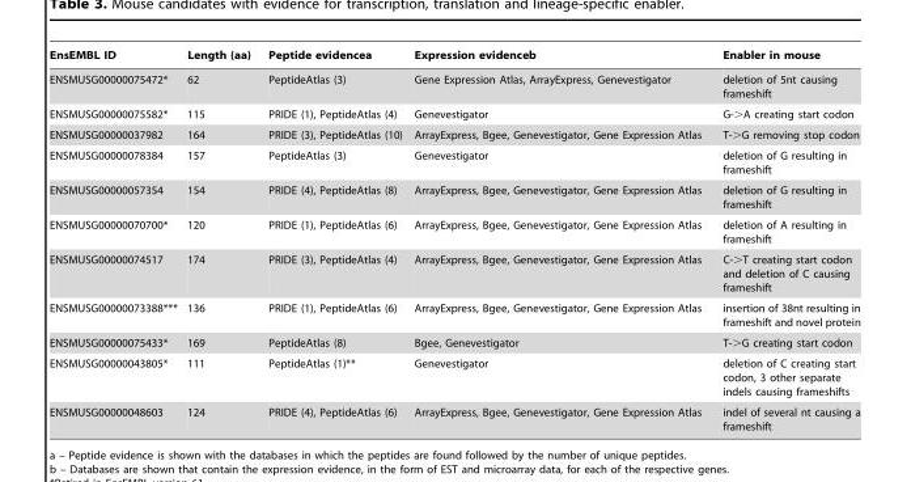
<table><thead><tr><td>EnsEMBL ID</td><td>Length (aa)</td><td>Peptide evidencea</td><td>Expression evidenceb</td><td>Enabler in mouse</td></tr></thead><tbody><tr><td>ENSMUSG00000075472*</td><td>62</td><td>PeptideAtlas (3)</td><td>Gene Expression Atlas, ArrayExpress, Genevestigator</td><td>deletion of 5nt causing frameshift</td></tr><tr><td>ENSMUSG00000075582*</td><td>115</td><td>PRIDE (1), PeptideAtlas (4)</td><td>Genevestigator</td><td>G-&gt;A creating start codon</td></tr><tr><td>ENSMUSG00000037982</td><td>164</td><td>PRIDE (3), PeptideAtlas (10)</td><td>ArrayExpress, Bgee, Genevestigator, Gene Expression Atlas</td><td>T-&gt;G removing stop codon</td></tr><tr><td>ENSMUSG00000078384</td><td>157</td><td>PeptideAtlas (3)</td><td>Genevestigator</td><td>deletion of G resulting in frameshift</td></tr><tr><td>ENSMUSG00000057354</td><td>154</td><td>PRIDE (4), PeptideAtlas (8)</td><td>ArrayExpress, Bgee, Genevestigator, Gene Expression Atlas</td><td>deletion of G resulting in frameshift</td></tr><tr><td>ENSMUSG00000070700*</td><td>120</td><td>PRIDE (1), PeptideAtlas (6)</td><td>ArrayExpress, Bgee, Genevestigator, Gene Expression Atlas</td><td>deletion of A resulting in frameshift</td></tr><tr><td>ENSMUSG00000074517</td><td>174</td><td>PRIDE (3), PeptideAtlas (4)</td><td>ArrayExpress, Bgee, Genevestigator, Gene Expression Atlas</td><td>C-&gt;T creating start codon and deletion of C causing frameshift</td></tr><tr><td>ENSMUSG00000073388***</td><td>136</td><td>PRIDE (1), PeptideAtlas (6)</td><td>ArrayExpress, Bgee, Genevestigator, Gene Expression Atlas</td><td>insertion of 38nt resulting in frameshift and novel protein</td></tr><tr><td>ENSMUSG00000075433*</td><td>169</td><td>PeptideAtlas (8)</td><td>Bgee, Genevestigator</td><td>T-&gt;G creating start codon</td></tr><tr><td>ENSMUSG00000043805*</td><td>111</td><td>PeptideAtlas (1)**</td><td>Genevestigator</td><td>deletion of C creating start codon, 3 other separate indels causing frameshifts</td></tr><tr><td>ENSMUSG00000048603</td><td>124</td><td>PRIDE (4), PeptideAtlas (6)</td><td>ArrayExpress, Bgee, Genevestigator, Gene Expression Atlas</td><td>indel of several nt causing a frameshift</td></tr></tbody></table>